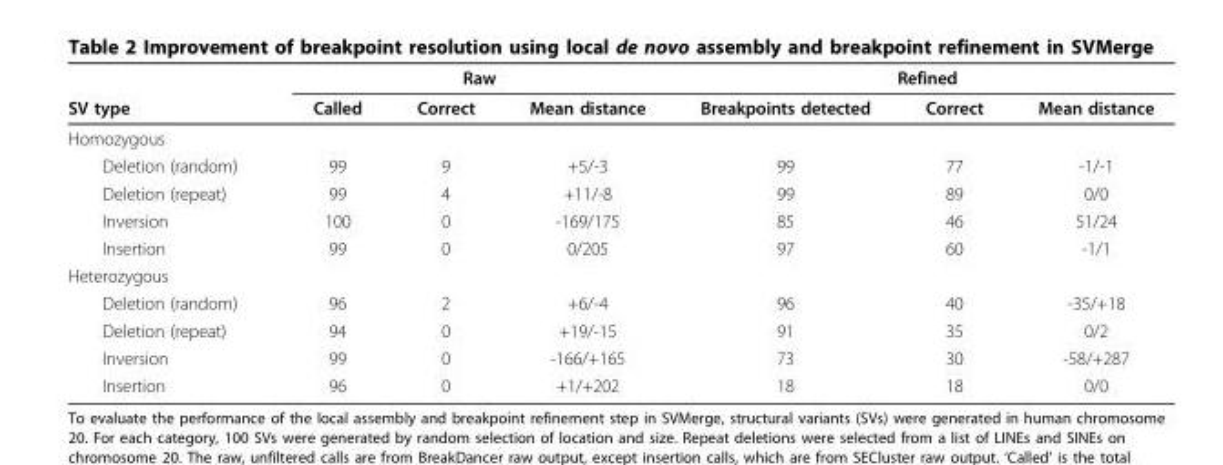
<table><thead><tr><td rowspan="2">SV type</td><td colspan="3">Raw</td><td colspan="3">Refined</td></tr><tr><td>Called</td><td>Correct</td><td>Mean distance</td><td>Breakpoints detected</td><td>Correct</td><td>Mean distance</td></tr></thead><tbody><tr><td colspan="7">Homozygous</td></tr><tr><td>Deletion (random)</td><td>99</td><td>9</td><td>+5/-3</td><td>99</td><td>77</td><td>-1/-1</td></tr><tr><td>Deletion (repeat)</td><td>99</td><td>4</td><td>+11/-8</td><td>99</td><td>89</td><td>0/0</td></tr><tr><td>Inversion</td><td>100</td><td>0</td><td>-169/175</td><td>85</td><td>46</td><td>51/24</td></tr><tr><td>Insertion</td><td>99</td><td>0</td><td>0/205</td><td>97</td><td>60</td><td>-1/1</td></tr><tr><td colspan="7">Heterozygous</td></tr><tr><td>Deletion (random)</td><td>96</td><td>2</td><td>+6/-4</td><td>96</td><td>40</td><td>-35/+18</td></tr><tr><td>Deletion (repeat)</td><td>94</td><td>0</td><td>+19/-15</td><td>91</td><td>35</td><td>0/2</td></tr><tr><td>Inversion</td><td>99</td><td>0</td><td>-166/+165</td><td>73</td><td>30</td><td>-58/+287</td></tr><tr><td>Insertion</td><td>96</td><td>0</td><td>+1/+202</td><td>18</td><td>18</td><td>0/0</td></tr></tbody></table>